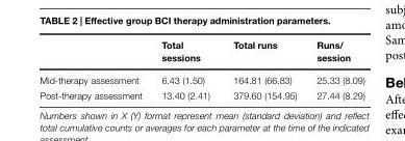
<table><thead><tr><td></td><td>Total sessions</td><td>Total runs</td><td>Runs/ session</td></tr></thead><tbody><tr><td>Mid-therapy assessment</td><td>6.43 (1.50)</td><td>164.81 (66.83)</td><td>25.33 (8.09)</td></tr><tr><td>Post-therapy assessment</td><td>13.40 (2.41)</td><td>379.60 (154.95)</td><td>27.44 (8.29)</td></tr></tbody></table>